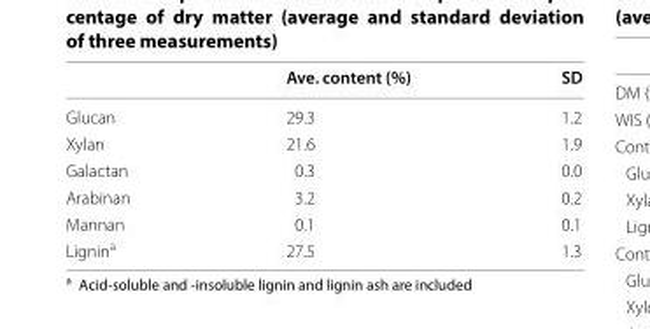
<table><thead><tr><td></td><td>Ave. content (%)</td><td>SD</td></tr></thead><tbody><tr><td>Glucan</td><td>29.3</td><td>1.2</td></tr><tr><td>Xylan</td><td>21.6</td><td>1.9</td></tr><tr><td>Galactan</td><td>0.3</td><td>0.0</td></tr><tr><td>Arabinan</td><td>3.2</td><td>0.2</td></tr><tr><td>Mannan</td><td>0.1</td><td>0.1</td></tr><tr><td>Lignin<sup>a</sup></td><td>27.5</td><td>1.3</td></tr></tbody></table>